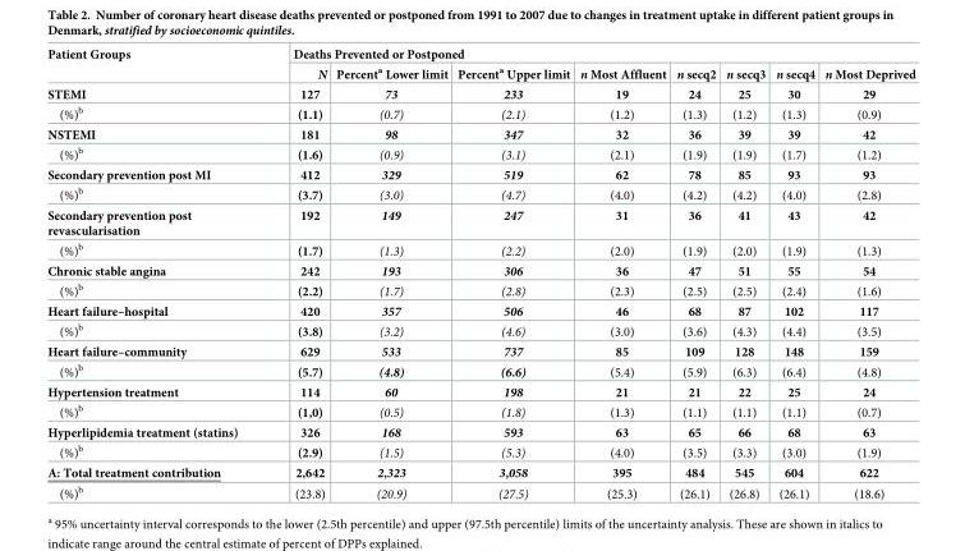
<table><thead><tr><td rowspan="2">Patient Groups</td><td colspan="8">Deaths Prevented or Postponed</td></tr><tr><td>N</td><td>Percent<sup>a</sup> Lower limit</td><td>Percent<sup>a</sup> Upper limit</td><td>n Most Affluent</td><td>n secq2</td><td>n secq3</td><td>n secq4</td><td>n Most Deprived</td></tr></thead><tbody><tr><td>STEMI</td><td>127</td><td>73</td><td>233</td><td>19</td><td>24</td><td>25</td><td>30</td><td>29</td></tr><tr><td>(%)<sup>b</sup></td><td>(1.1)</td><td>(0.7)</td><td>(2.1)</td><td>(1.2)</td><td>(1.3)</td><td>(1.2)</td><td>(1.3)</td><td>(0.9)</td></tr><tr><td>NSTEMI</td><td>181</td><td>98</td><td>347</td><td>32</td><td>36</td><td>39</td><td>39</td><td>42</td></tr><tr><td>(%)<sup>b</sup></td><td>(1.6)</td><td>(0.9)</td><td>(3.1)</td><td>(2.1)</td><td>(1.9)</td><td>(1.9)</td><td>(1.7)</td><td>(1.2)</td></tr><tr><td>Secondary prevention post MI</td><td>412</td><td>329</td><td>519</td><td>62</td><td>78</td><td>85</td><td>93</td><td>93</td></tr><tr><td>(%)<sup>b</sup></td><td>(3.7)</td><td>(3.0)</td><td>(4.7)</td><td>(4.0)</td><td>(4.2)</td><td>(4.2)</td><td>(4.0)</td><td>(2.8)</td></tr><tr><td>Secondary prevention post revascularisation</td><td>192</td><td>149</td><td>247</td><td>31</td><td>36</td><td>41</td><td>43</td><td>42</td></tr><tr><td>(%)<sup>b</sup></td><td>(1.7)</td><td>(1.3)</td><td>(2.2)</td><td>(2.0)</td><td>(1.9)</td><td>(2.0)</td><td>(1.9)</td><td>(1.3)</td></tr><tr><td>Chronic stable angina</td><td>242</td><td>193</td><td>306</td><td>36</td><td>47</td><td>51</td><td>55</td><td>54</td></tr><tr><td>(%)<sup>b</sup></td><td>(2.2)</td><td>(1.7)</td><td>(2.8)</td><td>(2.3)</td><td>(2.5)</td><td>(2.5)</td><td>(2.4)</td><td>(1.6)</td></tr><tr><td>Heart failure–hospital</td><td>420</td><td>357</td><td>506</td><td>46</td><td>68</td><td>87</td><td>102</td><td>117</td></tr><tr><td>(%)<sup>b</sup></td><td>(3.8)</td><td>(3.2)</td><td>(4.6)</td><td>(3.0)</td><td>(3.6)</td><td>(4.3)</td><td>(4.4)</td><td>(3.5)</td></tr><tr><td>Heart failure–community</td><td>629</td><td>533</td><td>737</td><td>85</td><td>109</td><td>128</td><td>148</td><td>159</td></tr><tr><td>(%)<sup>b</sup></td><td>(5.7)</td><td>(4.8)</td><td>(6.6)</td><td>(5.4)</td><td>(5.9)</td><td>(6.3)</td><td>(6.4)</td><td>(4.8)</td></tr><tr><td>Hypertension treatment</td><td>114</td><td>60</td><td>198</td><td>21</td><td>21</td><td>22</td><td>25</td><td>24</td></tr><tr><td>(%)<sup>b</sup></td><td>(1,0)</td><td>(0.5)</td><td>(1.8)</td><td>(1.3)</td><td>(1.1)</td><td>(1.1)</td><td>(1.1)</td><td>(0.7)</td></tr><tr><td>Hyperlipidemia treatment (statins)</td><td>326</td><td>168</td><td>593</td><td>63</td><td>65</td><td>66</td><td>68</td><td>63</td></tr><tr><td>(%)<sup>b</sup></td><td>(2.9)</td><td>(1.5)</td><td>(5.3)</td><td>(4.0)</td><td>(3.5)</td><td>(3.3)</td><td>(3.0)</td><td>(1.9)</td></tr><tr><td>A: Total treatment contribution</td><td>2,642</td><td>2,323</td><td>3,058</td><td>395</td><td>484</td><td>545</td><td>604</td><td>622</td></tr><tr><td>(%)<sup>b</sup></td><td>(23.8)</td><td>(20.9)</td><td>(27.5)</td><td>(25.3)</td><td>(26.1)</td><td>(26.8)</td><td>(26.1)</td><td>(18.6)</td></tr></tbody></table>